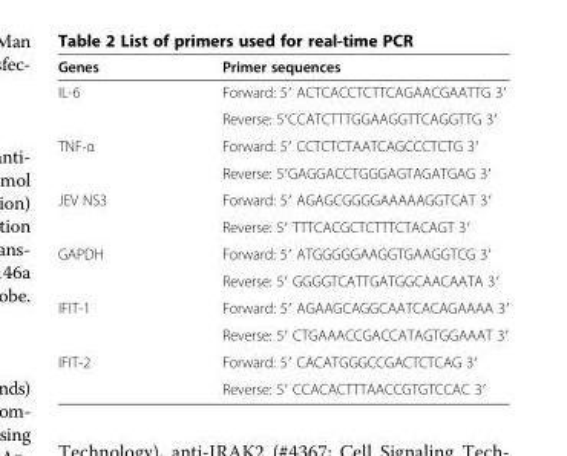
<table><thead><tr><td>Genes</td><td>Primer sequences</td></tr></thead><tbody><tr><td rowspan="2">IL-6</td><td>Forward: 5′ ACTCACCTCTTCAGAACGAATTG 3′</td></tr><tr><td>Reverse: 5′CCATCTTTGGAAGGTTCAGGTTG 3′</td></tr><tr><td rowspan="2">TNF-α</td><td>Forward: 5′ CCTCTCTAATCAGCCCTCTG 3′</td></tr><tr><td>Reverse: 5′GAGGACCTGGGAGTAGATGAG 3′</td></tr><tr><td rowspan="2">JEV NS3</td><td>Forward: 5′ AGAGCGGGGAAAAAGGTCAT 3′</td></tr><tr><td>Reverse: 5′ TTTCACGCTCTTTCTACAGT 3′</td></tr><tr><td rowspan="2">GAPDH</td><td>Forward: 5′ ATGGGGGAAGGTGAAGGTCG 3′</td></tr><tr><td>Reverse: 5′ GGGGTCATTGATGGCAACAATA 3′</td></tr><tr><td rowspan="2">IFIT-1</td><td>Forward: 5′ AGAAGCAGGCAATCACAGAAAA 3′</td></tr><tr><td>Reverse: 5′ CTGAAACCGACCATAGTGGAAAT 3′</td></tr><tr><td rowspan="2">IFIT-2</td><td>Forward: 5′ CACATGGGCCGACTCTCAG 3′</td></tr><tr><td>Reverse: 5′ CCACACTTTAACCGTGTCCAC 3′</td></tr></tbody></table>